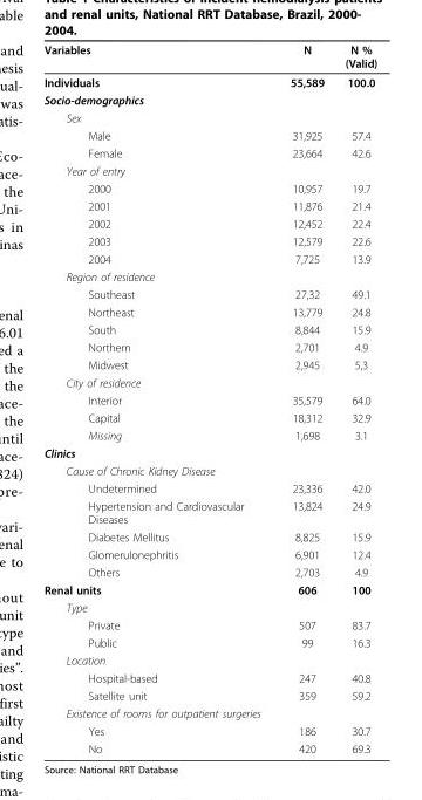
<table><thead><tr><td>Variables</td><td>N</td><td>N % (Valid)</td></tr></thead><tbody><tr><td>Individuals</td><td>55,589</td><td>100.0</td></tr><tr><td colspan="3">Socio-demographics</td></tr><tr><td colspan="3">Sex</td></tr><tr><td>Male</td><td>31,925</td><td>57.4</td></tr><tr><td>Female</td><td>23,664</td><td>42.6</td></tr><tr><td colspan="3">Year of entry</td></tr><tr><td>2000</td><td>10,957</td><td>19.7</td></tr><tr><td>2001</td><td>11,876</td><td>21.4</td></tr><tr><td>2002</td><td>12,452</td><td>22.4</td></tr><tr><td>2003</td><td>12,579</td><td>22.6</td></tr><tr><td>2004</td><td>7,725</td><td>13.9</td></tr><tr><td colspan="3">Region of residence</td></tr><tr><td>Southeast</td><td>27,32</td><td>49.1</td></tr><tr><td>Northeast</td><td>13,779</td><td>24.8</td></tr><tr><td>South</td><td>8,844</td><td>15.9</td></tr><tr><td>Northern</td><td>2,701</td><td>4.9</td></tr><tr><td>Midwest</td><td>2,945</td><td>5,3</td></tr><tr><td colspan="3">City of residence</td></tr><tr><td>Interior</td><td>35,579</td><td>64.0</td></tr><tr><td>Capital</td><td>18,312</td><td>32.9</td></tr><tr><td>Missing</td><td>1,698</td><td>3.1</td></tr><tr><td colspan="3">Clinics</td></tr><tr><td colspan="3">Cause of Chronic Kidney Disease</td></tr><tr><td>Undetermined</td><td>23,336</td><td>42.0</td></tr><tr><td>Hypertension and Cardiovascular Diseases</td><td>13,824</td><td>24.9</td></tr><tr><td>Diabetes Mellitus</td><td>8,825</td><td>15.9</td></tr><tr><td>Glomerulonephritis</td><td>6,901</td><td>12.4</td></tr><tr><td>Others</td><td>2,703</td><td>4.9</td></tr><tr><td>Renal units</td><td>606</td><td>100</td></tr><tr><td colspan="3">Type</td></tr><tr><td>Private</td><td>507</td><td>83.7</td></tr><tr><td>Public</td><td>99</td><td>16.3</td></tr><tr><td colspan="3">Location</td></tr><tr><td>Hospital-based</td><td>247</td><td>40.8</td></tr><tr><td>Satellite unit</td><td>359</td><td>59.2</td></tr><tr><td colspan="3">Existence of rooms for outpatient surgeries</td></tr><tr><td>Yes</td><td>186</td><td>30.7</td></tr><tr><td>No</td><td>420</td><td>69.3</td></tr></tbody></table>